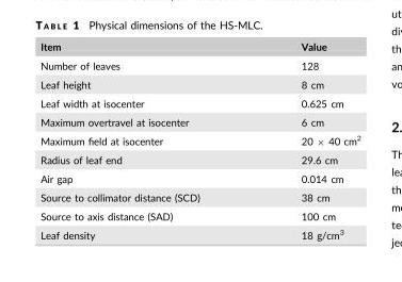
<table><thead><tr><td>Item</td><td>Value</td></tr></thead><tbody><tr><td>Number of leaves</td><td>128</td></tr><tr><td>Leaf height</td><td>8 cm</td></tr><tr><td>Leaf width at isocenter</td><td>0.625 cm</td></tr><tr><td>Maximum overtravel at isocenter</td><td>6 cm</td></tr><tr><td>Maximum field at isocenter</td><td>20 × 40 cm<sup>2</sup></td></tr><tr><td>Radius of leaf end</td><td>29.6 cm</td></tr><tr><td>Air gap</td><td>0.014 cm</td></tr><tr><td>Source to collimator distance (SCD)</td><td>38 cm</td></tr><tr><td>Source to axis distance (SAD)</td><td>100 cm</td></tr><tr><td>Leaf density</td><td>18 g/cm<sup>3</sup></td></tr></tbody></table>